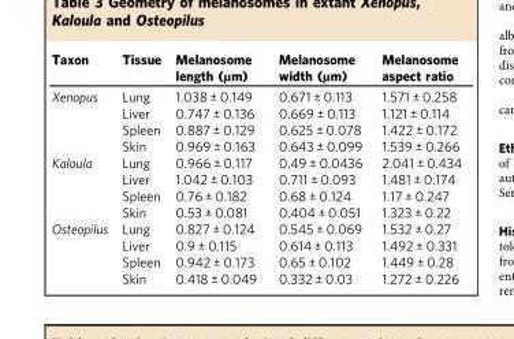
<table><thead><tr><td>Taxon</td><td>Tissue</td><td>Melanosome length (µm)</td><td>Melanosome width (µm)</td><td>Melanosome aspect ratio</td></tr></thead><tbody><tr><td rowspan="4">Xenopus</td><td>Lung</td><td>1.038 ± 0.149</td><td>0.671 ± 0.113</td><td>1.571 ± 0.258</td></tr><tr><td>Liver</td><td>0.747 ± 0.136</td><td>0.669 ± 0.113</td><td>1.121 ± 0.114</td></tr><tr><td>Spleen</td><td>0.887 ± 0.129</td><td>0.625 ± 0.078</td><td>1.422 ± 0.172</td></tr><tr><td>Skin</td><td>0.969 ± 0.163</td><td>0.643 ± 0.099</td><td>1.539 ± 0.266</td></tr><tr><td rowspan="4">Kaloula</td><td>Lung</td><td>0.966 ± 0.117</td><td>0.49 ± 0.0436</td><td>2.041 ± 0.434</td></tr><tr><td>Liver</td><td>1.042 ± 0.103</td><td>0.711 ± 0.093</td><td>1.481 ± 0.174</td></tr><tr><td>Spleen</td><td>0.76 ± 0.182</td><td>0.68 ± 0.124</td><td>1.17 ± 0.247</td></tr><tr><td>Skin</td><td>0.53 ± 0.081</td><td>0.404 ± 0.051</td><td>1.323 ± 0.22</td></tr><tr><td rowspan="4">Osteopilus</td><td>Lung</td><td>0.827 ± 0.124</td><td>0.545 ± 0.069</td><td>1.532 ± 0.27</td></tr><tr><td>Liver</td><td>0.9 ± 0.115</td><td>0.614 ± 0.113</td><td>1.492 ± 0.331</td></tr><tr><td>Spleen</td><td>0.942 ± 0.173</td><td>0.65 ± 0.102</td><td>1.449 ± 0.28</td></tr><tr><td>Skin</td><td>0.418 ± 0.049</td><td>0.332 ± 0.03</td><td>1.272 ± 0.226</td></tr></tbody></table>